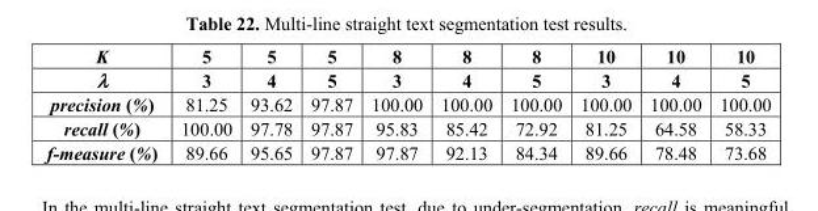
<table><thead><tr><td rowspan="2">K λ</td><td rowspan="2">5 3</td><td rowspan="2">5 4</td><td rowspan="2">5 5</td><td rowspan="2">8 3</td><td rowspan="2">8 4</td><td rowspan="2">8 5</td><td rowspan="2">10 3</td><td rowspan="2">10 4</td><td rowspan="2">10 5</td></tr><tr></tr></thead><tbody><tr><td>precision (%)</td><td>81.25</td><td>93.62</td><td>97.87</td><td>100.00</td><td>100.00</td><td>100.00</td><td>100.00</td><td>100.00</td><td>100.00</td></tr><tr><td>recall (%)</td><td>100.00</td><td>97.78</td><td>97.87</td><td>95.83</td><td>85.42</td><td>72.92</td><td>81.25</td><td>64.58</td><td>58.33</td></tr><tr><td>f-measure (%)</td><td>89.66</td><td>95.65</td><td>97.87</td><td>97.87</td><td>92.13</td><td>84.34</td><td>89.66</td><td>78.48</td><td>73.68</td></tr></tbody></table>